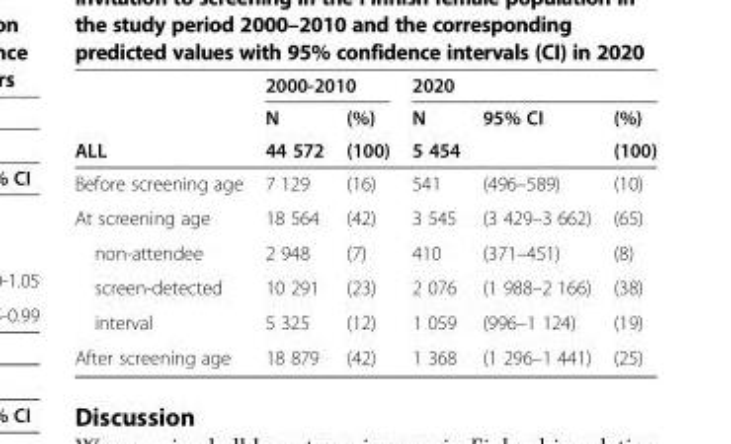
<table><thead><tr><td rowspan="3">ALL</td><td colspan="2">2000-2010</td><td colspan="3">2020</td></tr><tr><td rowspan="2">N 44 572</td><td rowspan="2">(%) (100)</td><td rowspan="2">N 5 454</td><td rowspan="2">95% CI</td><td rowspan="2">(%) (100)</td></tr><tr></tr></thead><tbody><tr><td>Before screening age</td><td>7 129</td><td>(16)</td><td>541</td><td>(496–589)</td><td>(10)</td></tr><tr><td>At screening age</td><td>18 564</td><td>(42)</td><td>3 545</td><td>(3 429–3 662)</td><td>(65)</td></tr><tr><td>non-attendee</td><td>2 948</td><td>(7)</td><td>410</td><td>(371–451)</td><td>(8)</td></tr><tr><td>screen-detected</td><td>10 291</td><td>(23)</td><td>2 076</td><td>(1 988–2 166)</td><td>(38)</td></tr><tr><td>interval</td><td>5 325</td><td>(12)</td><td>1 059</td><td>(996–1 124)</td><td>(19)</td></tr><tr><td>After screening age</td><td>18 879</td><td>(42)</td><td>1 368</td><td>(1 296–1 441)</td><td>(25)</td></tr></tbody></table>